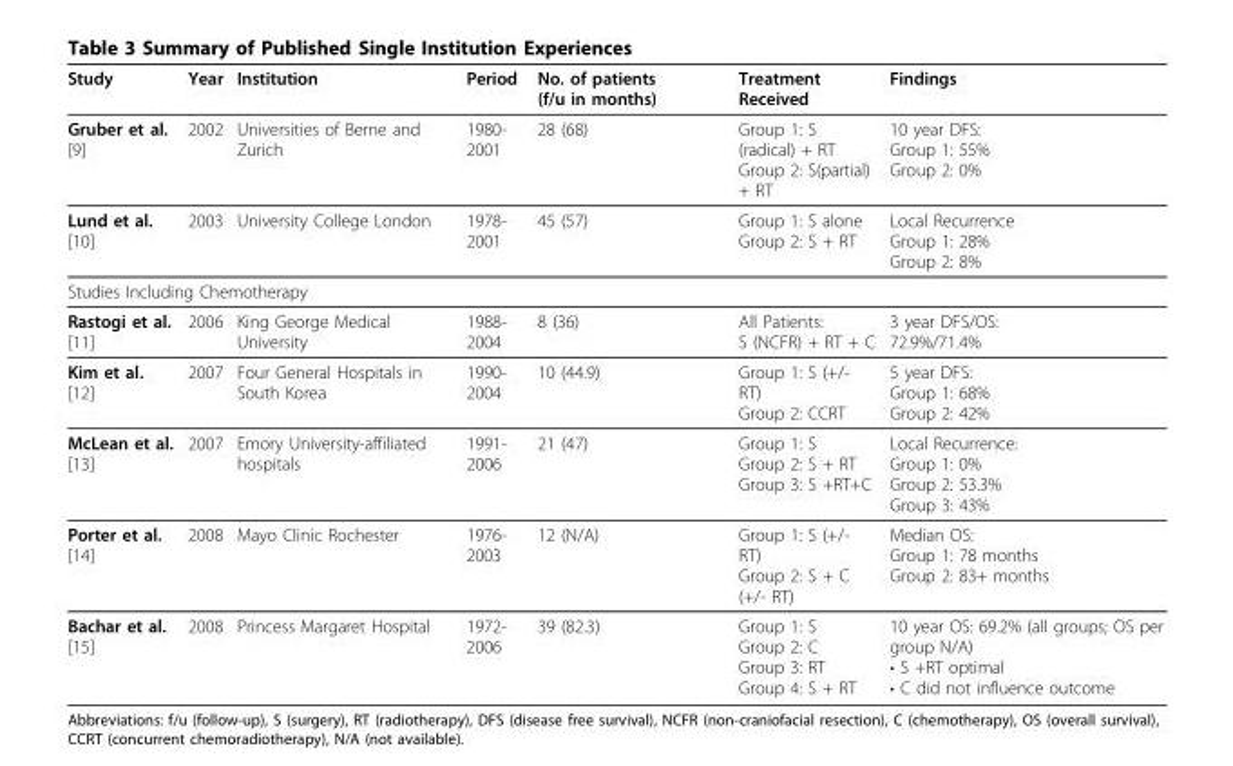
<table><thead><tr><td>Study</td><td>Year</td><td>Institution</td><td>Period</td><td>No. of patients (f/u in months)</td><td>Treatment Received</td><td>Findings</td></tr></thead><tbody><tr><td>Gruber et al. [9]</td><td>2002</td><td>Universities of Berne and Zurich</td><td>1980- 2001</td><td>28 (68)</td><td>Group 1: S (radical) + RT Group 2: S(partial) + RT</td><td>10 year DFS: Group 1: 55% Group 2: 0%</td></tr><tr><td>Lund et al. [10]</td><td>2003</td><td>University College London</td><td>1978- 2001</td><td>45 (57)</td><td>Group 1: S alone Group 2: S + RT</td><td>Local Recurrence Group 1: 28% Group 2: 8%</td></tr><tr><td colspan="7">Studies Including Chemotherapy</td></tr><tr><td>Rastogi et al. [11]</td><td>2006</td><td>King George Medical University</td><td>1988- 2004</td><td>8 (36)</td><td>All Patients: S (NCFR) + RT + C</td><td>3 year DFS/OS: 72.9%/71.4%</td></tr><tr><td>Kim et al. [12]</td><td>2007</td><td>Four General Hospitals in South Korea</td><td>1990- 2004</td><td>10 (44.9)</td><td>Group 1: S (+/- RT) Group 2: CCRT</td><td>5 year DFS: Group 1: 68% Group 2: 42%</td></tr><tr><td>McLean et al. [13]</td><td>2007</td><td>Emory University-affiliated hospitals</td><td>1991- 2006</td><td>21 (47)</td><td>Group 1: S Group 2: S + RT Group 3: S +RT+C</td><td>Local Recurrence: Group 1: 0% Group 2: 53.3% Group 3: 43%</td></tr><tr><td>Porter et al. [14]</td><td>2008</td><td>Mayo Clinic Rochester</td><td>1976- 2003</td><td>12 (N/A)</td><td>Group 1: S (+/- RT) Group 2: S + C (+/- RT)</td><td>Median OS: Group 1: 78 months Group 2: 83+ months</td></tr><tr><td>Bachar et al. [15]</td><td>2008</td><td>Princess Margaret Hospital</td><td>1972- 2006</td><td>39 (82.3)</td><td>Group 1: S Group 2: C Group 3: RT Group 4: S + RT</td><td>10 year OS: 69.2% (all groups; OS per group N/A) • S +RT optimal • C did not influence outcome</td></tr></tbody></table>